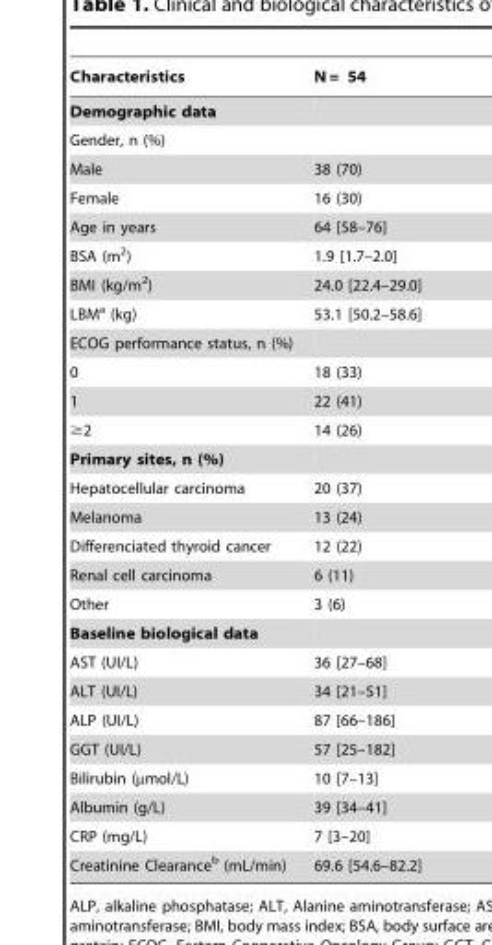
<table><thead><tr><td>Characteristics</td><td>N = 54</td></tr></thead><tbody><tr><td colspan="2">Demographic data</td></tr><tr><td colspan="2">Gender, n (%)</td></tr><tr><td>Male</td><td>38 (70)</td></tr><tr><td>Female</td><td>16 (30)</td></tr><tr><td>Age in years</td><td>64 [58–76]</td></tr><tr><td>BSA (m<sup>2</sup>)</td><td>1.9 [1.7–2.0]</td></tr><tr><td>BMI (kg/m<sup>2</sup>)</td><td>24.0 [22.4–29.0]</td></tr><tr><td>LBM<sup>a</sup> (kg)</td><td>53.1 [50.2–58.6]</td></tr><tr><td colspan="2">ECOG performance status, n (%)</td></tr><tr><td>0</td><td>18 (33)</td></tr><tr><td>1</td><td>22 (41)</td></tr><tr><td>≥2</td><td>14 (26)</td></tr><tr><td colspan="2">Primary sites, n (%)</td></tr><tr><td>Hepatocellular carcinoma</td><td>20 (37)</td></tr><tr><td>Melanoma</td><td>13 (24)</td></tr><tr><td>Differenciated thyroid cancer</td><td>12 (22)</td></tr><tr><td>Renal cell carcinoma</td><td>6 (11)</td></tr><tr><td>Other</td><td>3 (6)</td></tr><tr><td colspan="2">Baseline biological data</td></tr><tr><td>AST (UI/L)</td><td>36 [27–68]</td></tr><tr><td>ALT (UI/L)</td><td>34 [21–51]</td></tr><tr><td>ALP (UI/L)</td><td>87 [66–186]</td></tr><tr><td>GGT (UI/L)</td><td>57 [25–182]</td></tr><tr><td>Bilirubin (µmol/L)</td><td>10 [7–13]</td></tr><tr><td>Albumin (g/L)</td><td>39 [34–41]</td></tr><tr><td>CRP (mg/L)</td><td>7 [3–20]</td></tr><tr><td>Creatinine Clearance<sup>b</sup> (mL/min)</td><td>69.6 [54.6–82.2]</td></tr></tbody></table>